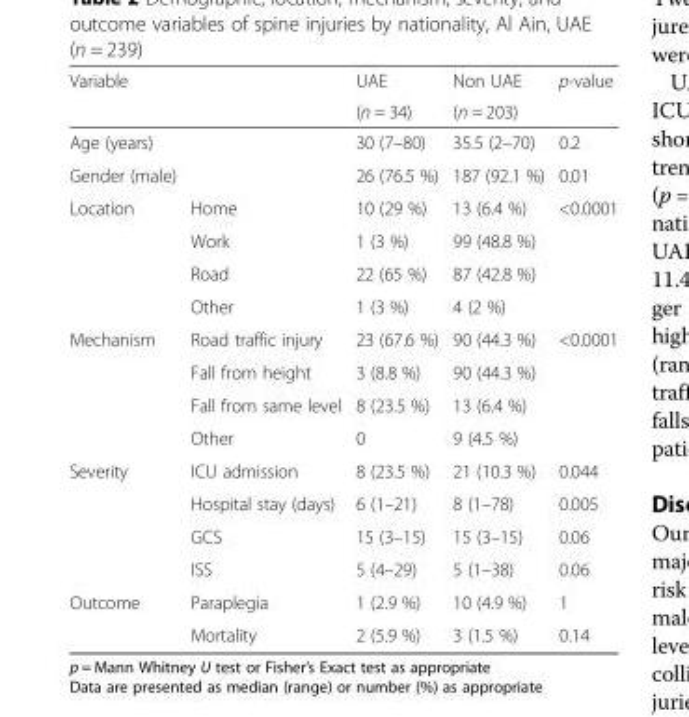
<table><thead><tr><td rowspan="2">Variable</td><td rowspan="2"></td><td rowspan="2">UAE (n = 34)</td><td rowspan="2">Non UAE (n = 203)</td><td rowspan="2">p-value</td></tr><tr></tr></thead><tbody><tr><td>Age (years)</td><td></td><td>30 (7–80)</td><td>35.5 (2–70)</td><td>0.2</td></tr><tr><td>Gender (male)</td><td></td><td>26 (76.5 %)</td><td>187 (92.1 %)</td><td>0.01</td></tr><tr><td rowspan="4">Location</td><td>Home</td><td>10 (29 %)</td><td>13 (6.4 %)</td><td rowspan="3">&lt;0.0001</td></tr><tr><td>Work</td><td>1 (3 %)</td><td>99 (48.8 %)</td></tr><tr><td>Road</td><td>22 (65 %)</td><td>87 (42.8 %)</td></tr><tr><td>Other</td><td>1 (3 %)</td><td>4 (2 %)</td><td></td></tr><tr><td rowspan="4">Mechanism</td><td>Road traffic injury</td><td>23 (67.6 %)</td><td>90 (44.3 %)</td><td rowspan="4">&lt;0.0001</td></tr><tr><td>Fall from height</td><td>3 (8.8 %)</td><td>90 (44.3 %)</td></tr><tr><td>Fall from same level</td><td>8 (23.5 %)</td><td>13 (6.4 %)</td></tr><tr><td>Other</td><td>0</td><td>9 (4.5 %)</td></tr><tr><td rowspan="4">Severity</td><td>ICU admission</td><td>8 (23.5 %)</td><td>21 (10.3 %)</td><td>0.044</td></tr><tr><td>Hospital stay (days)</td><td>6 (1–21)</td><td>8 (1–78)</td><td>0.005</td></tr><tr><td>GCS</td><td>15 (3–15)</td><td>15 (3–15)</td><td>0.06</td></tr><tr><td>ISS</td><td>5 (4–29)</td><td>5 (1–38)</td><td>0.06</td></tr><tr><td rowspan="2">Outcome</td><td>Paraplegia</td><td>1 (2.9 %)</td><td>10 (4.9 %)</td><td>1</td></tr><tr><td>Mortality</td><td>2 (5.9 %)</td><td>3 (1.5 %)</td><td>0.14</td></tr></tbody></table>